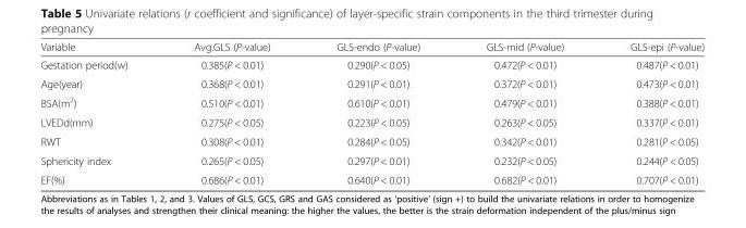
<table><thead><tr><td>Variable</td><td>Avg.GLS (P-value)</td><td>GLS-endo (P-value)</td><td>GLS-mid (P-value)</td><td>GLS-epi (P-value)</td></tr></thead><tbody><tr><td>Gestation period(w)</td><td>0.385(P &lt; 0.01)</td><td>0.290(P &lt; 0.05)</td><td>0.472(P &lt; 0.01)</td><td>0.487(P &lt; 0.01)</td></tr><tr><td>Age(year)</td><td>0.368(P &lt; 0.01)</td><td>0.291(P &lt; 0.01)</td><td>0.372(P &lt; 0.01)</td><td>0.473(P &lt; 0.01)</td></tr><tr><td>BSA(m<sup>2</sup>)</td><td>0.510(P &lt; 0.01)</td><td>0.610(P &lt; 0.01)</td><td>0.479(P &lt; 0.01)</td><td>0.388(P &lt; 0.01)</td></tr><tr><td>LVEDd(mm)</td><td>0.275(P &lt; 0.05)</td><td>0.223(P &lt; 0.05)</td><td>0.263(P &lt; 0.05)</td><td>0.337(P &lt; 0.01)</td></tr><tr><td>RWT</td><td>0.308(P &lt; 0.01)</td><td>0.284(P &lt; 0.05)</td><td>0.342(P &lt; 0.01)</td><td>0.281(P &lt; 0.05)</td></tr><tr><td>Sphericity index</td><td>0.265(P &lt; 0.05)</td><td>0.297(P &lt; 0.01)</td><td>0.232(P &lt; 0.05)</td><td>0.244(P &lt; 0.05)</td></tr><tr><td>EF(%)</td><td>0.686(P &lt; 0.01)</td><td>0.640(P &lt; 0.01)</td><td>0.682(P &lt; 0.01)</td><td>0.707(P &lt; 0.01)</td></tr></tbody></table>